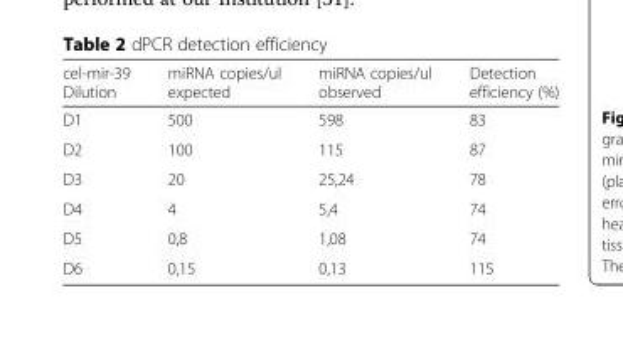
<table><thead><tr><td>cel-mir-39 Dilution</td><td>miRNA copies/ul expected</td><td>miRNA copies/ul observed</td><td>Detection efficiency (%)</td></tr></thead><tbody><tr><td>D1</td><td>500</td><td>598</td><td>83</td></tr><tr><td>D2</td><td>100</td><td>115</td><td>87</td></tr><tr><td>D3</td><td>20</td><td>25,24</td><td>78</td></tr><tr><td>D4</td><td>4</td><td>5,4</td><td>74</td></tr><tr><td>D5</td><td>0,8</td><td>1,08</td><td>74</td></tr><tr><td>D6</td><td>0,15</td><td>0,13</td><td>115</td></tr></tbody></table>